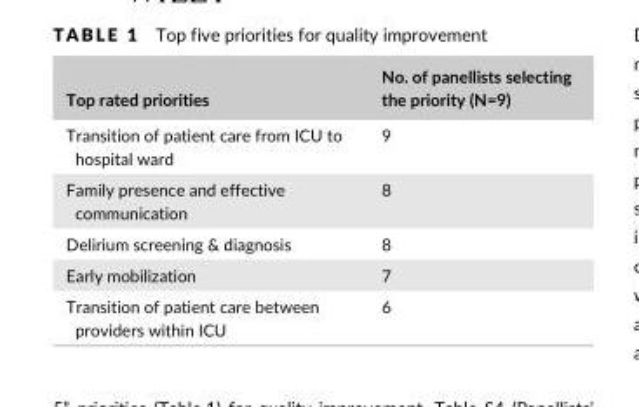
<table><thead><tr><td>Top rated priorities</td><td>No. of panellists selecting the priority (N=9)</td></tr></thead><tbody><tr><td>Transition of patient care from ICU to hospital ward</td><td>9</td></tr><tr><td>Family presence and effective communication</td><td>8</td></tr><tr><td>Delirium screening &amp; diagnosis</td><td>8</td></tr><tr><td>Early mobilization</td><td>7</td></tr><tr><td>Transition of patient care between providers within ICU</td><td>6</td></tr></tbody></table>